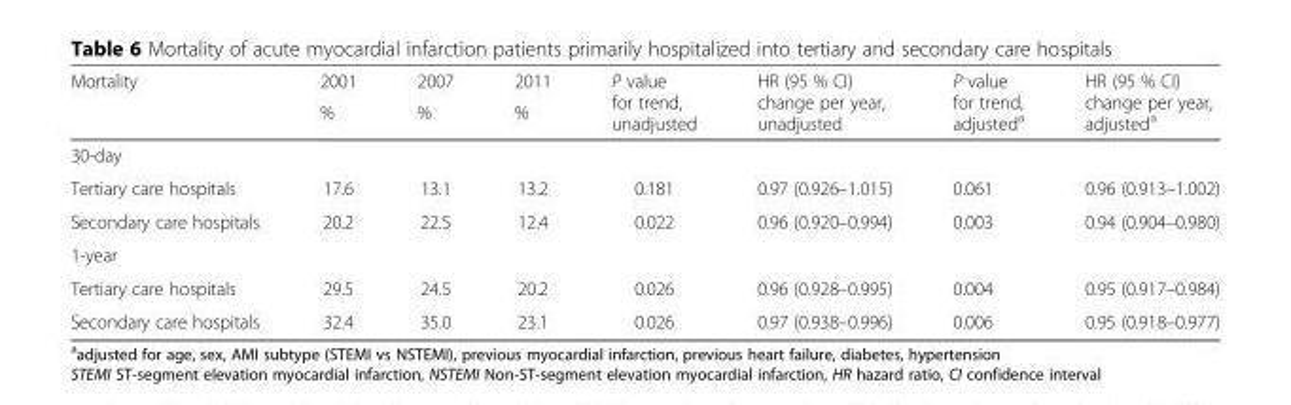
<table><thead><tr><td rowspan="2">Mortality</td><td rowspan="2">2001 %</td><td rowspan="2">2007 %</td><td rowspan="2">2011 %</td><td rowspan="2">P value for trend, unadjusted</td><td rowspan="2">HR (95 % CI) change per year, unadjusted</td><td rowspan="2">P value for trend, adjusted<sup>a</sup></td><td rowspan="2">HR (95 % CI) change per year, adjusted<sup>a</sup></td></tr><tr></tr></thead><tbody><tr><td colspan="8">30-day</td></tr><tr><td>Tertiary care hospitals</td><td>17.6</td><td>13.1</td><td>13.2</td><td>0.181</td><td>0.97 (0.926–1.015)</td><td>0.061</td><td>0.96 (0.913–1.002)</td></tr><tr><td>Secondary care hospitals</td><td>20.2</td><td>22.5</td><td>12.4</td><td>0.022</td><td>0.96 (0.920–0.994)</td><td>0.003</td><td>0.94 (0.904–0.980)</td></tr><tr><td colspan="8">1-year</td></tr><tr><td>Tertiary care hospitals</td><td>29.5</td><td>24.5</td><td>20.2</td><td>0.026</td><td>0.96 (0.928–0.995)</td><td>0.004</td><td>0.95 (0.917–0.984)</td></tr><tr><td>Secondary care hospitals</td><td>32.4</td><td>35.0</td><td>23.1</td><td>0.026</td><td>0.97 (0.938–0.996)</td><td>0.006</td><td>0.95 (0.918–0.977)</td></tr></tbody></table>